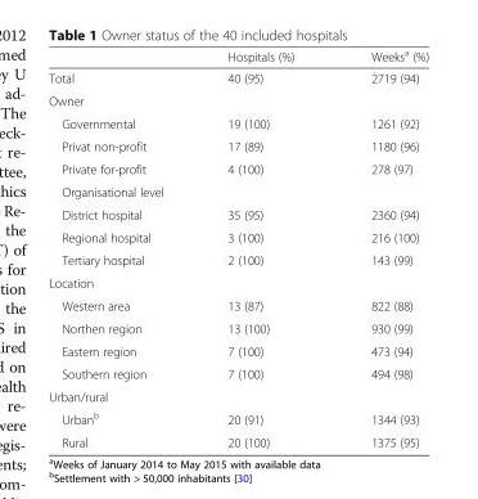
<table><thead><tr><td></td><td>Hospitals (%)</td><td>Weeks<sup>a</sup> (%)</td></tr></thead><tbody><tr><td>Total</td><td>40 (95)</td><td>2719 (94)</td></tr><tr><td colspan="3">Owner</td></tr><tr><td>Governmental</td><td>19 (100)</td><td>1261 (92)</td></tr><tr><td>Privat non-profit</td><td>17 (89)</td><td>1180 (96)</td></tr><tr><td>Private for-profit</td><td>4 (100)</td><td>278 (97)</td></tr><tr><td colspan="3">Organisational level</td></tr><tr><td>District hospital</td><td>35 (95)</td><td>2360 (94)</td></tr><tr><td>Regional hospital</td><td>3 (100)</td><td>216 (100)</td></tr><tr><td>Tertiary hospital</td><td>2 (100)</td><td>143 (99)</td></tr><tr><td colspan="3">Location</td></tr><tr><td>Western area</td><td>13 (87)</td><td>822 (88)</td></tr><tr><td>Northen region</td><td>13 (100)</td><td>930 (99)</td></tr><tr><td>Eastern region</td><td>7 (100)</td><td>473 (94)</td></tr><tr><td>Southern region</td><td>7 (100)</td><td>494 (98)</td></tr><tr><td colspan="3">Urban/rural</td></tr><tr><td>Urban<sup>b</sup></td><td>20 (91)</td><td>1344 (93)</td></tr><tr><td>Rural</td><td>20 (100)</td><td>1375 (95)</td></tr></tbody></table>